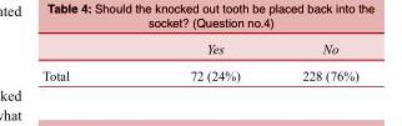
<table><thead><tr><td></td><td>Yes</td><td>No</td></tr></thead><tbody><tr><td>Total</td><td>72 (24%)</td><td>228 (76%)</td></tr></tbody></table>